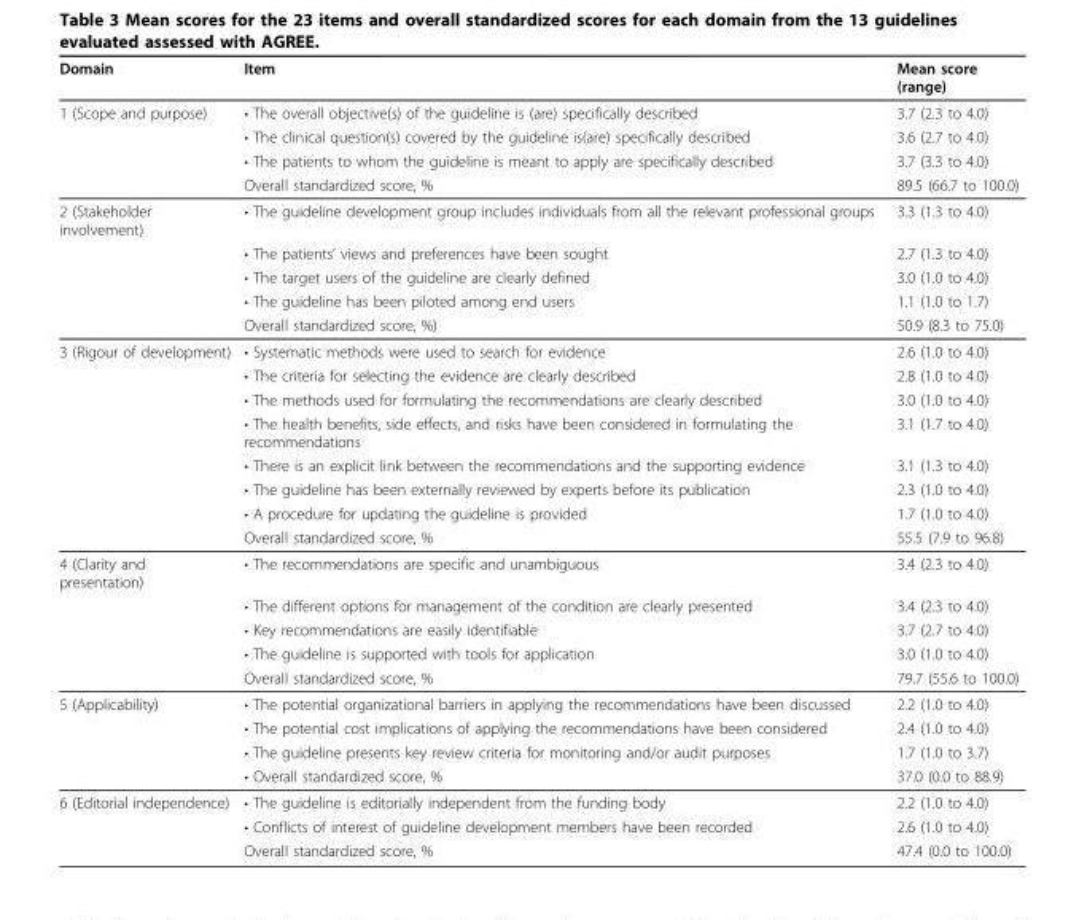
<table><thead><tr><td>Domain</td><td>Item</td><td>Mean score (range)</td></tr></thead><tbody><tr><td rowspan="4">1 (Scope and purpose)</td><td>• The overall objective(s) of the guideline is (are) specifically described</td><td>3.7 (2.3 to 4.0)</td></tr><tr><td>• The clinical question(s) covered by the guideline is(are) specifically described</td><td>3.6 (2.7 to 4.0)</td></tr><tr><td>• The patients to whom the guideline is meant to apply are specifically described</td><td>3.7 (3.3 to 4.0)</td></tr><tr><td>Overall standardized score, %</td><td>89.5 (66.7 to 100.0)</td></tr><tr><td rowspan="5">2 (Stakeholder involvement)</td><td>• The guideline development group includes individuals from all the relevant professional groups</td><td>3.3 (1.3 to 4.0)</td></tr><tr><td>• The patients’ views and preferences have been sought</td><td>2.7 (1.3 to 4.0)</td></tr><tr><td>• The target users of the guideline are clearly defined</td><td>3.0 (1.0 to 4.0)</td></tr><tr><td>• The guideline has been piloted among end users</td><td>1.1 (1.0 to 1.7)</td></tr><tr><td>Overall standardized score, %)</td><td>50.9 (8.3 to 75.0)</td></tr><tr><td rowspan="8">3 (Rigour of development)</td><td>• Systematic methods were used to search for evidence</td><td>2.6 (1.0 to 4.0)</td></tr><tr><td>• The criteria for selecting the evidence are clearly described</td><td>2.8 (1.0 to 4.0)</td></tr><tr><td>• The methods used for formulating the recommendations are clearly described</td><td>3.0 (1.0 to 4.0)</td></tr><tr><td>• The health benefits, side effects, and risks have been considered in formulating the recommendations</td><td>3.1 (1.7 to 4.0)</td></tr><tr><td>• There is an explicit link between the recommendations and the supporting evidence</td><td>3.1 (1.3 to 4.0)</td></tr><tr><td>• The guideline has been externally reviewed by experts before its publication</td><td>2.3 (1.0 to 4.0)</td></tr><tr><td>• A procedure for updating the guideline is provided</td><td>1.7 (1.0 to 4.0)</td></tr><tr><td>Overall standardized score, %</td><td>55.5 (7.9 to 96.8)</td></tr><tr><td rowspan="5">4 (Clarity and presentation)</td><td>• The recommendations are specific and unambiguous</td><td>3.4 (2.3 to 4.0)</td></tr><tr><td>• The different options for management of the condition are clearly presented</td><td>3.4 (2.3 to 4.0)</td></tr><tr><td>• Key recommendations are easily identifiable</td><td>3.7 (2.7 to 4.0)</td></tr><tr><td>• The guideline is supported with tools for application</td><td>3.0 (1.0 to 4.0)</td></tr><tr><td>Overall standardized score, %</td><td>79.7 (55.6 to 100.0)</td></tr><tr><td rowspan="4">5 (Applicability)</td><td>• The potential organizational barriers in applying the recommendations have been discussed</td><td>2.2 (1.0 to 4.0)</td></tr><tr><td>• The potential cost implications of applying the recommendations have been considered</td><td>2.4 (1.0 to 4.0)</td></tr><tr><td>• The guideline presents key review criteria for monitoring and/or audit purposes</td><td>1.7 (1.0 to 3.7)</td></tr><tr><td>• Overall standardized score, %</td><td>37.0 (0.0 to 88.9)</td></tr><tr><td rowspan="3">6 (Editorial independence)</td><td>• The guideline is editorially independent from the funding body</td><td>2.2 (1.0 to 4.0)</td></tr><tr><td>• Conflicts of interest of guideline development members have been recorded</td><td>2.6 (1.0 to 4.0)</td></tr><tr><td>Overall standardized score, %</td><td>47.4 (0.0 to 100.0)</td></tr></tbody></table>